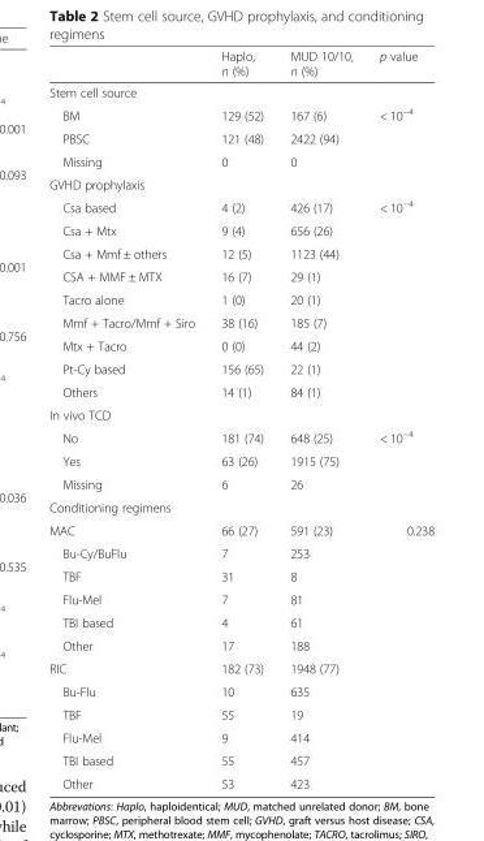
<table><thead><tr><td></td><td>Haplo, n (%)</td><td>MUD 10/10, n (%)</td><td>p value</td></tr></thead><tbody><tr><td colspan="4">Stem cell source</td></tr><tr><td>BM</td><td>129 (52)</td><td>167 (6)</td><td>&lt; 10<sup>−4</sup></td></tr><tr><td>PBSC</td><td>121 (48)</td><td>2422 (94)</td><td></td></tr><tr><td>Missing</td><td>0</td><td>0</td><td></td></tr><tr><td colspan="4">GVHD prophylaxis</td></tr><tr><td>Csa based</td><td>4 (2)</td><td>426 (17)</td><td>&lt; 10<sup>−4</sup></td></tr><tr><td>Csa + Mtx</td><td>9 (4)</td><td>656 (26)</td><td></td></tr><tr><td>Csa + Mmf ± others</td><td>12 (5)</td><td>1123 (44)</td><td></td></tr><tr><td>CSA + MMF ± MTX</td><td>16 (7)</td><td>29 (1)</td><td></td></tr><tr><td>Tacro alone</td><td>1 (0)</td><td>20 (1)</td><td></td></tr><tr><td>Mmf + Tacro/Mmf + Siro</td><td>38 (16)</td><td>185 (7)</td><td></td></tr><tr><td>Mtx + Tacro</td><td>0 (0)</td><td>44 (2)</td><td></td></tr><tr><td>Pt-Cy based</td><td>156 (65)</td><td>22 (1)</td><td></td></tr><tr><td>Others</td><td>14 (1)</td><td>84 (1)</td><td></td></tr><tr><td colspan="4">In vivo TCD</td></tr><tr><td>No</td><td>181 (74)</td><td>648 (25)</td><td>&lt; 10<sup>−4</sup></td></tr><tr><td>Yes</td><td>63 (26)</td><td>1915 (75)</td><td></td></tr><tr><td>Missing</td><td>6</td><td>26</td><td></td></tr><tr><td colspan="4">Conditioning regimens</td></tr><tr><td>MAC</td><td>66 (27)</td><td>591 (23)</td><td>0.238</td></tr><tr><td>Bu-Cy/BuFlu</td><td>7</td><td>253</td><td></td></tr><tr><td>TBF</td><td>31</td><td>8</td><td></td></tr><tr><td>Flu-Mel</td><td>7</td><td>81</td><td></td></tr><tr><td>TBI based</td><td>4</td><td>61</td><td></td></tr><tr><td>Other</td><td>17</td><td>188</td><td></td></tr><tr><td>RIC</td><td>182 (73)</td><td>1948 (77)</td><td></td></tr><tr><td>Bu-Flu</td><td>10</td><td>635</td><td></td></tr><tr><td>TBF</td><td>55</td><td>19</td><td></td></tr><tr><td>Flu-Mel</td><td>9</td><td>414</td><td></td></tr><tr><td>TBI based</td><td>55</td><td>457</td><td></td></tr><tr><td>Other</td><td>53</td><td>423</td><td></td></tr></tbody></table>